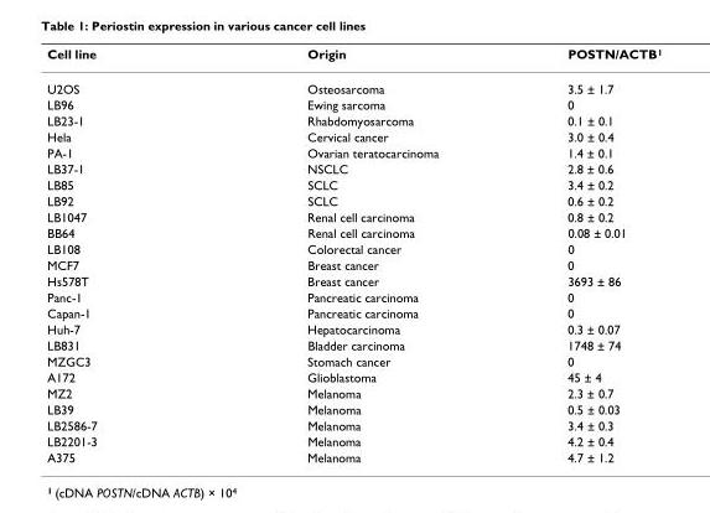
<table><thead><tr><td>Cell line</td><td>Origin</td><td>POSTN/ACTB<sup>1</sup></td></tr></thead><tbody><tr><td>U2OS</td><td>Osteosarcoma</td><td>3.5 ± 1.7</td></tr><tr><td>LB96</td><td>Ewing sarcoma</td><td>0</td></tr><tr><td>LB23-1</td><td>Rhabdomyosarcoma</td><td>0.1 ± 0.1</td></tr><tr><td>Hela</td><td>Cervical cancer</td><td>3.0 ± 0.4</td></tr><tr><td>PA-1</td><td>Ovarian teratocarcinoma</td><td>1.4 ± 0.1</td></tr><tr><td>LB37-1</td><td>NSCLC</td><td>2.8 ± 0.6</td></tr><tr><td>LB85</td><td>SCLC</td><td>3.4 ± 0.2</td></tr><tr><td>LB92</td><td>SCLC</td><td>0.6 ± 0.2</td></tr><tr><td>LB1047</td><td>Renal cell carcinoma</td><td>0.8 ± 0.2</td></tr><tr><td>BB64</td><td>Renal cell carcinoma</td><td>0.08 ± 0.01</td></tr><tr><td>LB108</td><td>Colorectal cancer</td><td>0</td></tr><tr><td>MCF7</td><td>Breast cancer</td><td>0</td></tr><tr><td>Hs578T</td><td>Breast cancer</td><td>3693 ± 86</td></tr><tr><td>Panc-1</td><td>Pancreatic carcinoma</td><td>0</td></tr><tr><td>Capan-1</td><td>Pancreatic carcinoma</td><td>0</td></tr><tr><td>Huh-7</td><td>Hepatocarcinoma</td><td>0.3 ± 0.07</td></tr><tr><td>LB831</td><td>Bladder carcinoma</td><td>1748 ± 74</td></tr><tr><td>MZGC3</td><td>Stomach cancer</td><td>0</td></tr><tr><td>A172</td><td>Glioblastoma</td><td>45 ± 4</td></tr><tr><td>MZ2</td><td>Melanoma</td><td>2.3 ± 0.7</td></tr><tr><td>LB39</td><td>Melanoma</td><td>0.5 ± 0.03</td></tr><tr><td>LB2586-7</td><td>Melanoma</td><td>3.4 ± 0.3</td></tr><tr><td>LB2201-3</td><td>Melanoma</td><td>4.2 ± 0.4</td></tr><tr><td>A375</td><td>Melanoma</td><td>4.7 ± 1.2</td></tr></tbody></table>